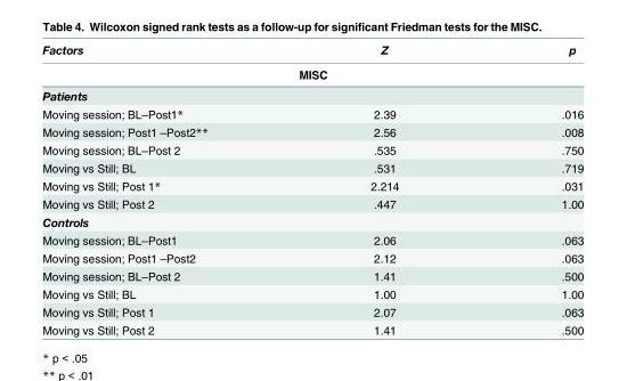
<table><thead><tr><td>Factors</td><td>Z</td><td>p</td></tr><tr><td colspan="3">MISC</td></tr></thead><tbody><tr><td colspan="3">Patients</td></tr><tr><td>Moving session; BL–Post1*</td><td>2.39</td><td>.016</td></tr><tr><td>Moving session; Post1 –Post2**</td><td>2.56</td><td>.008</td></tr><tr><td>Moving session; BL–Post 2</td><td>.535</td><td>.750</td></tr><tr><td>Moving vs Still; BL</td><td>.531</td><td>.719</td></tr><tr><td>Moving vs Still; Post 1*</td><td>2.214</td><td>.031</td></tr><tr><td>Moving vs Still; Post 2</td><td>.447</td><td>1.00</td></tr><tr><td colspan="3">Controls</td></tr><tr><td>Moving session; BL–Post1</td><td>2.06</td><td>.063</td></tr><tr><td>Moving session; Post1 –Post2</td><td>2.12</td><td>.063</td></tr><tr><td>Moving session; BL–Post 2</td><td>1.41</td><td>.500</td></tr><tr><td>Moving vs Still; BL</td><td>1.00</td><td>1.00</td></tr><tr><td>Moving vs Still; Post 1</td><td>2.07</td><td>.063</td></tr><tr><td>Moving vs Still; Post 2</td><td>1.41</td><td>.500</td></tr></tbody></table>